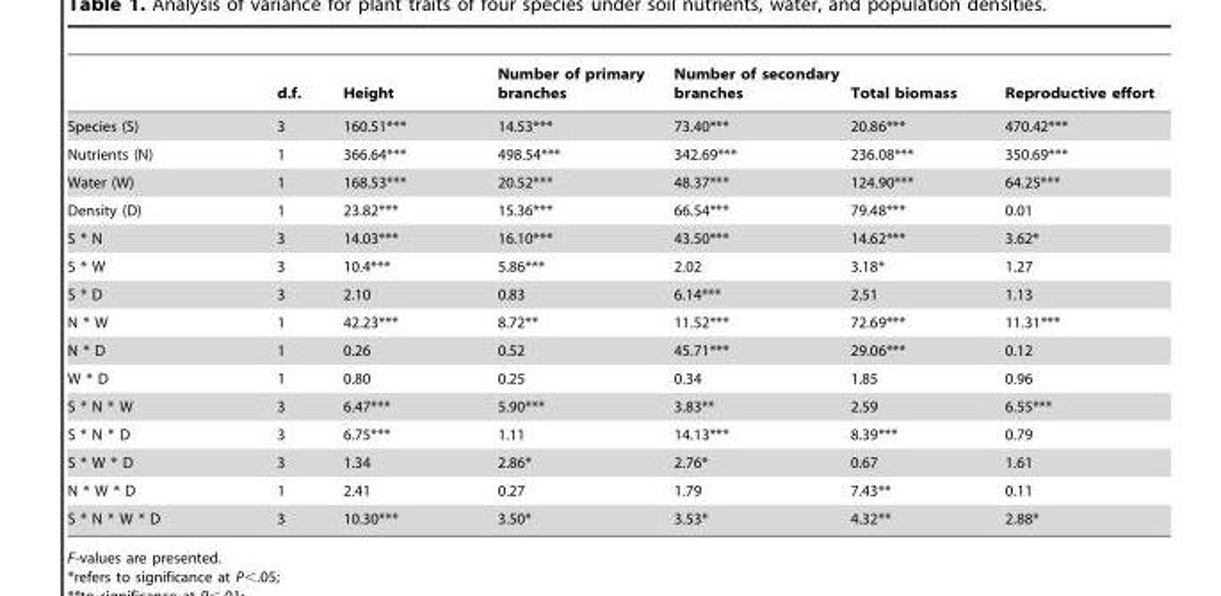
<table><thead><tr><td></td><td>d.f.</td><td>Height</td><td>Number of primary branches</td><td>Number of secondary branches</td><td>Total biomass</td><td>Reproductive effort</td></tr></thead><tbody><tr><td>Species (S)</td><td>3</td><td>160.51***</td><td>14.53***</td><td>73.40***</td><td>20.86***</td><td>470.42***</td></tr><tr><td>Nutrients (N)</td><td>1</td><td>366.64***</td><td>498.54***</td><td>342.69***</td><td>236.08***</td><td>350.69***</td></tr><tr><td>Water (W)</td><td>1</td><td>168.53***</td><td>20.52***</td><td>48.37***</td><td>124.90***</td><td>64.25***</td></tr><tr><td>Density (D)</td><td>1</td><td>23.82***</td><td>15.36***</td><td>66.54***</td><td>79.48***</td><td>0.01</td></tr><tr><td>S * N</td><td>3</td><td>14.03***</td><td>16.10***</td><td>43.50***</td><td>14.62***</td><td>3.62*</td></tr><tr><td>S * W</td><td>3</td><td>10.4***</td><td>5.86***</td><td>2.02</td><td>3.18*</td><td>1.27</td></tr><tr><td>S * D</td><td>3</td><td>2.10</td><td>0.83</td><td>6.14***</td><td>2.51</td><td>1.13</td></tr><tr><td>N * W</td><td>1</td><td>42.23***</td><td>8.72**</td><td>11.52***</td><td>72.69***</td><td>11.31***</td></tr><tr><td>N * D</td><td>1</td><td>0.26</td><td>0.52</td><td>45.71***</td><td>29.06***</td><td>0.12</td></tr><tr><td>W * D</td><td>1</td><td>0.80</td><td>0.25</td><td>0.34</td><td>1.85</td><td>0.96</td></tr><tr><td>S * N * W</td><td>3</td><td>6.47***</td><td>5.90***</td><td>3.83**</td><td>2.59</td><td>6.55***</td></tr><tr><td>S * N * D</td><td>3</td><td>6.75***</td><td>1.11</td><td>14.13***</td><td>8.39***</td><td>0.79</td></tr><tr><td>S * W * D</td><td>3</td><td>1.34</td><td>2.86*</td><td>2.76*</td><td>0.67</td><td>1.61</td></tr><tr><td>N * W * D</td><td>1</td><td>2.41</td><td>0.27</td><td>1.79</td><td>7.43**</td><td>0.11</td></tr><tr><td>S * N * W * D</td><td>3</td><td>10.30***</td><td>3.50*</td><td>3.53*</td><td>4.32**</td><td>2.88*</td></tr></tbody></table>